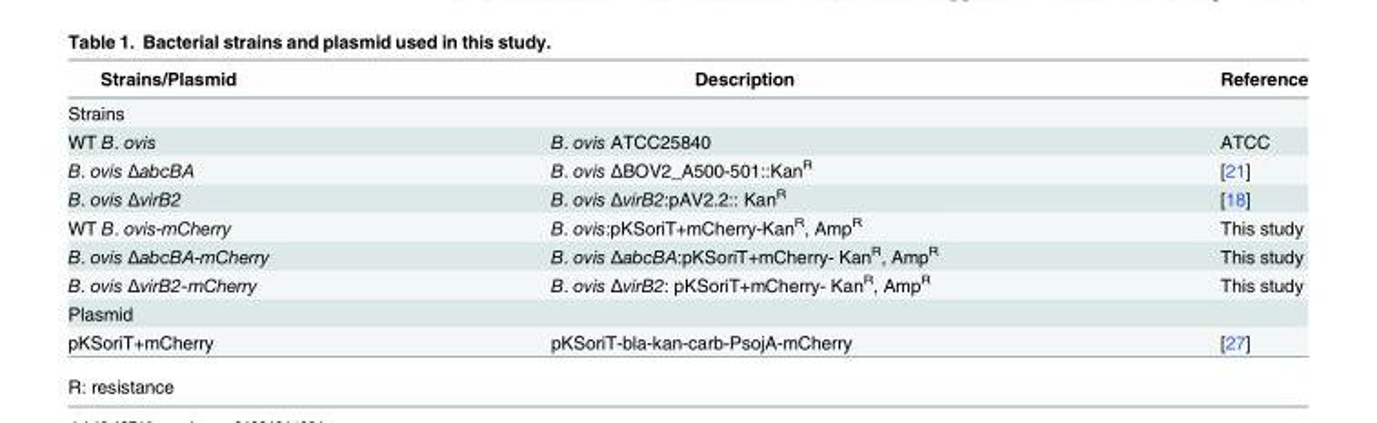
<table><thead><tr><td>Strains/Plasmid</td><td>Description</td><td>Reference</td></tr></thead><tbody><tr><td colspan="3">Strains</td></tr><tr><td>WT B. ovis</td><td>B. ovis ATCC25840</td><td>ATCC</td></tr><tr><td>B. ovis ΔabcBA</td><td>B. ovis ΔBOV2_A500-501::Kan<sup>R</sup></td><td>[21]</td></tr><tr><td>B. ovis ΔvirB2</td><td>B. ovis ΔvirB2:pAV2.2:: Kan<sup>R</sup></td><td>[18]</td></tr><tr><td>WT B. ovis-mCherry</td><td>B. ovis:pKSoriT+mCherry-Kan<sup>R</sup>, Amp<sup>R</sup></td><td>This study</td></tr><tr><td>B. ovis ΔabcBA-mCherry</td><td>B. ovis ΔabcBA:pKSoriT+mCherry- Kan<sup>R</sup>, Amp<sup>R</sup></td><td>This study</td></tr><tr><td>B. ovis ΔvirB2-mCherry</td><td>B. ovis ΔvirB2: pKSoriT+mCherry- Kan<sup>R</sup>, Amp<sup>R</sup></td><td>This study</td></tr><tr><td colspan="3">Plasmid</td></tr><tr><td>pKSoriT+mCherry</td><td>pKSoriT-bla-kan-carb-PsojA-mCherry</td><td>[27]</td></tr></tbody></table>